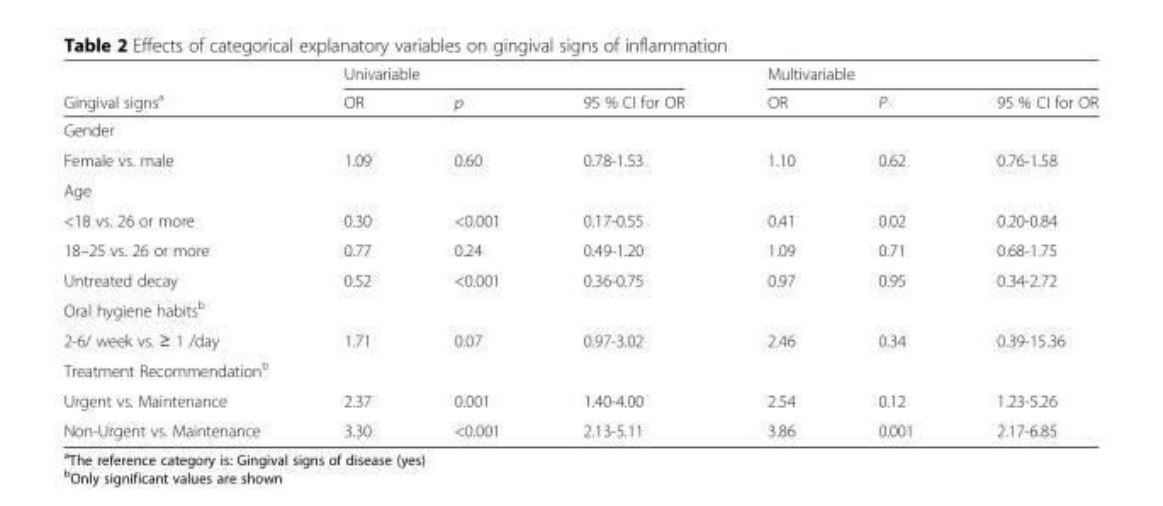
<table><thead><tr><td rowspan="2">Gingival signs<sup>a</sup></td><td colspan="3">Univariable</td><td colspan="3">Multivariable</td></tr><tr><td>OR</td><td>p</td><td>95 % CI for OR</td><td>OR</td><td>P</td><td>95 % CI for OR</td></tr></thead><tbody><tr><td colspan="7">Gender</td></tr><tr><td>Female vs. male</td><td>1.09</td><td>0.60</td><td>0.78-1.53</td><td>1.10</td><td>0.62</td><td>0.76-1.58</td></tr><tr><td colspan="7">Age</td></tr><tr><td>&lt;18 vs. 26 or more</td><td>0.30</td><td>&lt;0.001</td><td>0.17-0.55</td><td>0.41</td><td>0.02</td><td>0.20-0.84</td></tr><tr><td>18–25 vs. 26 or more</td><td>0.77</td><td>0.24</td><td>0.49-1.20</td><td>1.09</td><td>0.71</td><td>0.68-1.75</td></tr><tr><td>Untreated decay</td><td>0.52</td><td>&lt;0.001</td><td>0.36-0.75</td><td>0.97</td><td>0.95</td><td>0.34-2.72</td></tr><tr><td colspan="7">Oral hygiene habits<sup>b</sup></td></tr><tr><td>2-6/ week vs. ≥ 1 /day</td><td>1.71</td><td>0.07</td><td>0.97-3.02</td><td>2.46</td><td>0.34</td><td>0.39-15.36</td></tr><tr><td colspan="7">Treatment Recommendation<sup>b</sup></td></tr><tr><td>Urgent vs. Maintenance</td><td>2.37</td><td>0.001</td><td>1.40-4.00</td><td>2.54</td><td>0.12</td><td>1.23-5.26</td></tr><tr><td>Non-Urgent vs. Maintenance</td><td>3.30</td><td>&lt;0.001</td><td>2.13-5.11</td><td>3.86</td><td>0.001</td><td>2.17-6.85</td></tr></tbody></table>